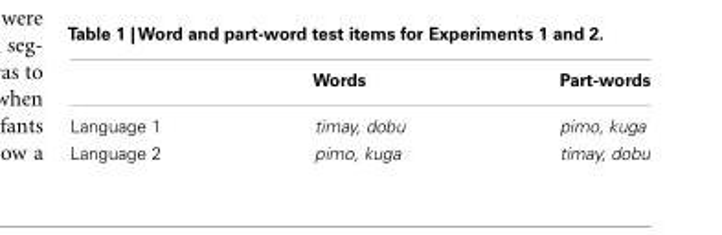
<table><thead><tr><td></td><td>Words</td><td>Part-words</td></tr></thead><tbody><tr><td>Language 1</td><td>timay, dobu</td><td>pimo, kuga</td></tr><tr><td>Language 2</td><td>pimo, kuga</td><td>timay, dobu</td></tr></tbody></table>